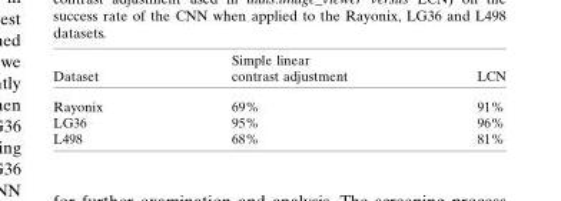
<table><thead><tr><td>Dataset</td><td>Simple linear contrast adjustment</td><td>LCN</td></tr></thead><tbody><tr><td>Rayonix</td><td>69%</td><td>91%</td></tr><tr><td>LG36</td><td>95%</td><td>96%</td></tr><tr><td>L498</td><td>68%</td><td>81%</td></tr></tbody></table>